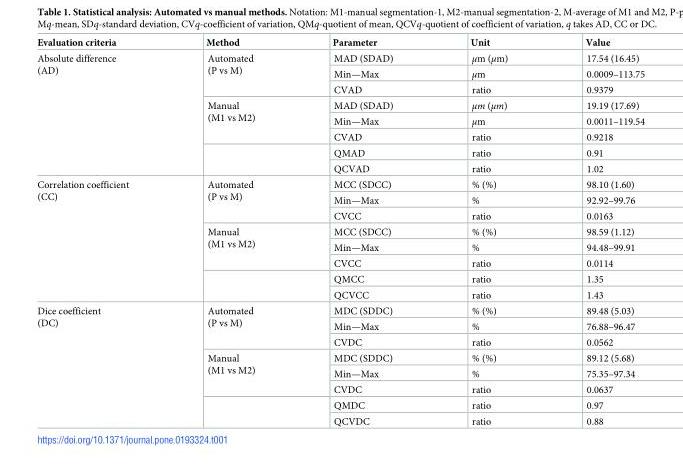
<table><thead><tr><td>Evaluation criteria</td><td>Method</td><td>Parameter</td><td>Unit</td><td>Value</td></tr></thead><tbody><tr><td rowspan="8">Absolute difference (AD)</td><td rowspan="3">Automated (P vs M)</td><td>MAD (SDAD)</td><td>μm (μm)</td><td>17.54 (16.45)</td></tr><tr><td>Min—Max</td><td>μm</td><td>0.0009–113.75</td></tr><tr><td>CVAD</td><td>ratio</td><td>0.9379</td></tr><tr><td rowspan="3">Manual (M1 vs M2)</td><td>MAD (SDAD)</td><td>μm (μm)</td><td>19.19 (17.69)</td></tr><tr><td>Min—Max</td><td>μm</td><td>0.0011–119.54</td></tr><tr><td>CVAD</td><td>ratio</td><td>0.9218</td></tr><tr><td rowspan="2"></td><td>QMAD</td><td>ratio</td><td>0.91</td></tr><tr><td>QCVAD</td><td>ratio</td><td>1.02</td></tr><tr><td rowspan="8">Correlation coefficient (CC)</td><td rowspan="3">Automated (P vs M)</td><td>MCC (SDCC)</td><td>% (%)</td><td>98.10 (1.60)</td></tr><tr><td>Min—Max</td><td>%</td><td>92.92–99.76</td></tr><tr><td>CVCC</td><td>ratio</td><td>0.0163</td></tr><tr><td rowspan="3">Manual (M1 vs M2)</td><td>MCC (SDCC)</td><td>% (%)</td><td>98.59 (1.12)</td></tr><tr><td>Min—Max</td><td>%</td><td>94.48–99.91</td></tr><tr><td>CVCC</td><td>ratio</td><td>0.0114</td></tr><tr><td rowspan="2"></td><td>QMCC</td><td>ratio</td><td>1.35</td></tr><tr><td>QCVCC</td><td>ratio</td><td>1.43</td></tr><tr><td rowspan="8">Dice coefficient (DC)</td><td rowspan="3">Automated (P vs M)</td><td>MDC (SDDC)</td><td>% (%)</td><td>89.48 (5.03)</td></tr><tr><td>Min—Max</td><td>%</td><td>76.88–96.47</td></tr><tr><td>CVDC</td><td>ratio</td><td>0.0562</td></tr><tr><td rowspan="3">Manual (M1 vs M2)</td><td>MDC (SDDC)</td><td>% (%)</td><td>89.12 (5.68)</td></tr><tr><td>Min—Max</td><td>%</td><td>75.35–97.34</td></tr><tr><td>CVDC</td><td>ratio</td><td>0.0637</td></tr><tr><td rowspan="2"></td><td>QMDC</td><td>ratio</td><td>0.97</td></tr><tr><td>QCVDC</td><td>ratio</td><td>0.88</td></tr></tbody></table>